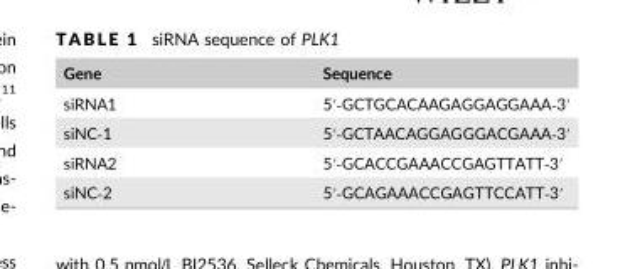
<table><thead><tr><td>Gene</td><td>Sequence</td></tr></thead><tbody><tr><td>siRNA1</td><td>5′‐GCTGCACAAGAGGAGGAAA‐3′</td></tr><tr><td>siNC‐1</td><td>5′‐GCTAACAGGAGGGACGAAA‐3′</td></tr><tr><td>siRNA2</td><td>5′‐GCACCGAAACCGAGTTATT‐3′</td></tr><tr><td>siNC‐2</td><td>5′‐GCAGAAACCGAGTTCCATT‐3′</td></tr></tbody></table>